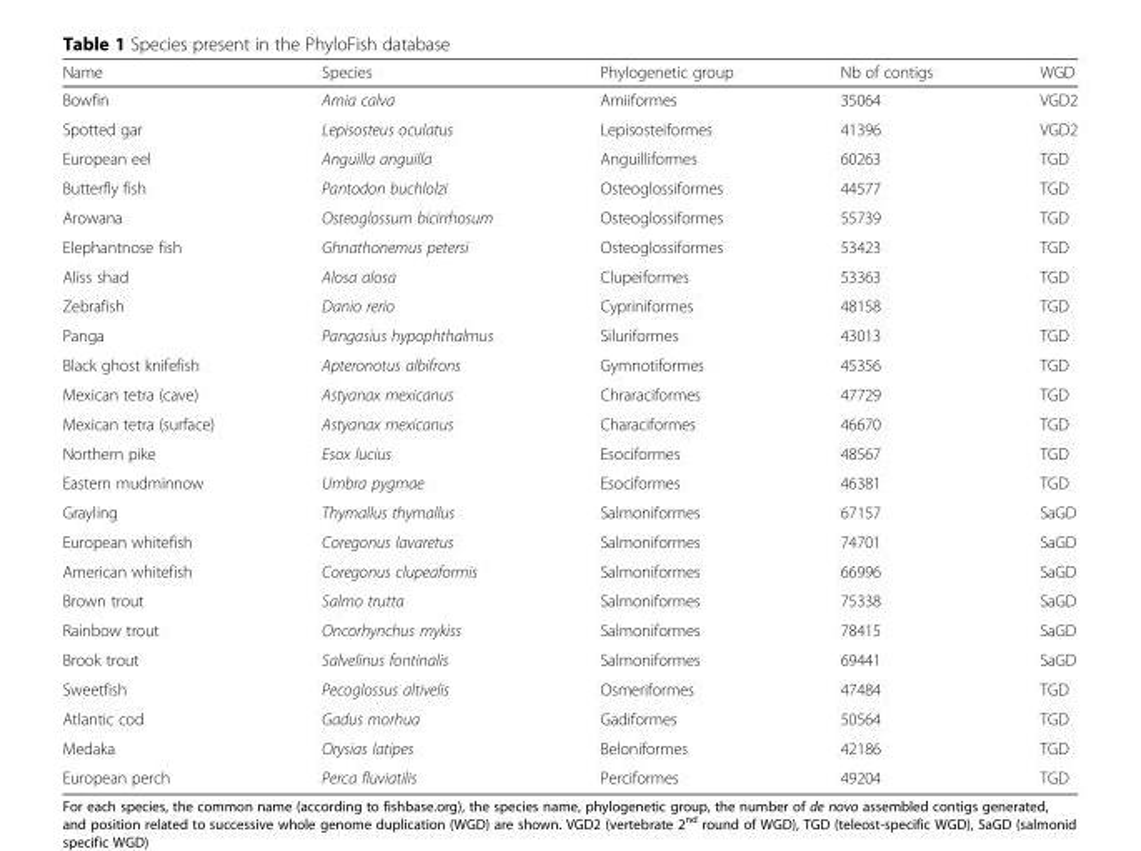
<table><thead><tr><td>Name</td><td>Species</td><td>Phylogenetic group</td><td>Nb of contigs</td><td>WGD</td></tr></thead><tbody><tr><td>Bowfin</td><td>Amia calva</td><td>Amiiformes</td><td>35064</td><td>VGD2</td></tr><tr><td>Spotted gar</td><td>Lepisosteus oculatus</td><td>Lepisosteiformes</td><td>41396</td><td>VGD2</td></tr><tr><td>European eel</td><td>Anguilla anguilla</td><td>Anguilliformes</td><td>60263</td><td>TGD</td></tr><tr><td>Butterfly fish</td><td>Pantodon buchlolzi</td><td>Osteoglossiformes</td><td>44577</td><td>TGD</td></tr><tr><td>Arowana</td><td>Osteoglossum bicirrhosum</td><td>Osteoglossiformes</td><td>55739</td><td>TGD</td></tr><tr><td>Elephantnose fish</td><td>Ghnathonemus petersi</td><td>Osteoglossiformes</td><td>53423</td><td>TGD</td></tr><tr><td>Aliss shad</td><td>Alosa alosa</td><td>Clupeiformes</td><td>53363</td><td>TGD</td></tr><tr><td>Zebrafish</td><td>Danio rerio</td><td>Cypriniformes</td><td>48158</td><td>TGD</td></tr><tr><td>Panga</td><td>Pangasius hypophthalmus</td><td>Siluriformes</td><td>43013</td><td>TGD</td></tr><tr><td>Black ghost knifefish</td><td>Apteronotus albifrons</td><td>Gymnotiformes</td><td>45356</td><td>TGD</td></tr><tr><td>Mexican tetra (cave)</td><td>Astyanax mexicanus</td><td>Chraraciformes</td><td>47729</td><td>TGD</td></tr><tr><td>Mexican tetra (surface)</td><td>Astyanax mexicanus</td><td>Characiformes</td><td>46670</td><td>TGD</td></tr><tr><td>Northern pike</td><td>Esox lucius</td><td>Esociformes</td><td>48567</td><td>TGD</td></tr><tr><td>Eastern mudminnow</td><td>Umbra pygmae</td><td>Esociformes</td><td>46381</td><td>TGD</td></tr><tr><td>Grayling</td><td>Thymallus thymallus</td><td>Salmoniformes</td><td>67157</td><td>SaGD</td></tr><tr><td>European whitefish</td><td>Coregonus lavaretus</td><td>Salmoniformes</td><td>74701</td><td>SaGD</td></tr><tr><td>American whitefish</td><td>Coregonus clupeaformis</td><td>Salmoniformes</td><td>66996</td><td>SaGD</td></tr><tr><td>Brown trout</td><td>Salmo trutta</td><td>Salmoniformes</td><td>75338</td><td>SaGD</td></tr><tr><td>Rainbow trout</td><td>Oncorhynchus mykiss</td><td>Salmoniformes</td><td>78415</td><td>SaGD</td></tr><tr><td>Brook trout</td><td>Salvelinus fontinalis</td><td>Salmoniformes</td><td>69441</td><td>SaGD</td></tr><tr><td>Sweetfish</td><td>Pecoglossus altivelis</td><td>Osmeriformes</td><td>47484</td><td>TGD</td></tr><tr><td>Atlantic cod</td><td>Gadus morhua</td><td>Gadiformes</td><td>50564</td><td>TGD</td></tr><tr><td>Medaka</td><td>Orysias latipes</td><td>Beloniformes</td><td>42186</td><td>TGD</td></tr><tr><td>European perch</td><td>Perca fluviatilis</td><td>Perciformes</td><td>49204</td><td>TGD</td></tr></tbody></table>